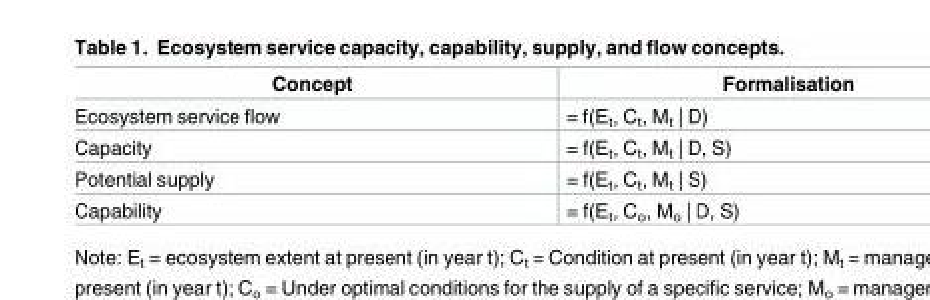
<table><thead><tr><td>Concept</td><td>Formalisation</td></tr></thead><tbody><tr><td>Ecosystem service flow</td><td>= f(E<sub>t</sub>, C<sub>t</sub>, M<sub>t</sub> | D)</td></tr><tr><td>Capacity</td><td>= f(E<sub>t</sub>, C<sub>t</sub>, M<sub>t</sub> | D, S)</td></tr><tr><td>Potential supply</td><td>= f(E<sub>t</sub>, C<sub>t</sub>, M<sub>t</sub> | S)</td></tr><tr><td>Capability</td><td>= f(E<sub>t</sub>, C<sub>o</sub>, M<sub>o</sub> | D, S)</td></tr></tbody></table>